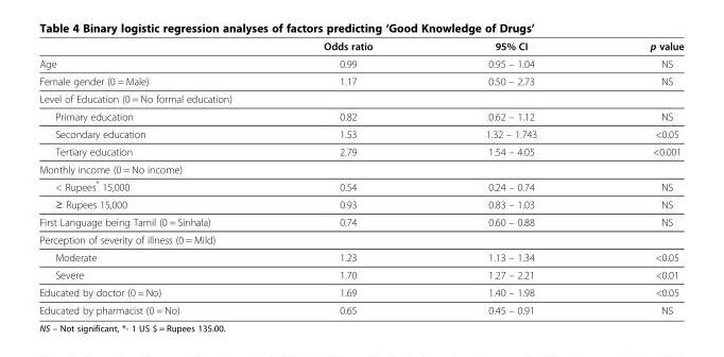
<table><thead><tr><td></td><td>Odds ratio</td><td>95% CI</td><td>p value</td></tr></thead><tbody><tr><td>Age</td><td>0.99</td><td>0.95 – 1.04</td><td>NS</td></tr><tr><td>Female gender (0 = Male)</td><td>1.17</td><td>0.50 – 2.73</td><td>NS</td></tr><tr><td colspan="4">Level of Education (0 = No formal education)</td></tr><tr><td>Primary education</td><td>0.82</td><td>0.62 – 1.12</td><td>NS</td></tr><tr><td>Secondary education</td><td>1.53</td><td>1.32 – 1.743</td><td>&lt;0.05</td></tr><tr><td>Tertiary education</td><td>2.79</td><td>1.54 – 4.05</td><td>&lt;0.001</td></tr><tr><td colspan="4">Monthly income (0 = No income)</td></tr><tr><td>&lt; Rupees* 15,000</td><td>0.54</td><td>0.24 – 0.74</td><td>NS</td></tr><tr><td>≥ Rupees 15,000</td><td>0.93</td><td>0.83 – 1.03</td><td>NS</td></tr><tr><td>First Language being Tamil (0 = Sinhala)</td><td>0.74</td><td>0.60 – 0.88</td><td>NS</td></tr><tr><td colspan="4">Perception of severity of illness (0 = Mild)</td></tr><tr><td>Moderate</td><td>1.23</td><td>1.13 – 1.34</td><td>&lt;0.05</td></tr><tr><td>Severe</td><td>1.70</td><td>1.27 – 2.21</td><td>&lt;0.01</td></tr><tr><td>Educated by doctor (0 = No)</td><td>1.69</td><td>1.40 – 1.98</td><td>&lt;0.05</td></tr><tr><td>Educated by pharmacist (0 = No)</td><td>0.65</td><td>0.45 – 0.91</td><td>NS</td></tr></tbody></table>